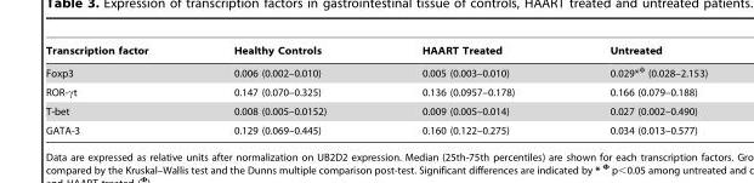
<table><thead><tr><td>Transcription factor</td><td>Healthy Controls</td><td>HAART Treated</td><td>Untreated</td></tr></thead><tbody><tr><td>Foxp3</td><td>0.006 (0.002–0.010)</td><td>0.005 (0.003–0.010)</td><td>0.029*<sup>Φ</sup> (0.028–2.153)</td></tr><tr><td>ROR-γt</td><td>0.147 (0.070–0.325)</td><td>0.136 (0.0957–0.178)</td><td>0.166 (0.079–0.188)</td></tr><tr><td>T-bet</td><td>0.008 (0.005–0.0152)</td><td>0.009 (0.005–0.014)</td><td>0.027 (0.002–0.490)</td></tr><tr><td>GATA-3</td><td>0.129 (0.069–0.445)</td><td>0.160 (0.122–0.275)</td><td>0.034 (0.013–0.577)</td></tr></tbody></table>